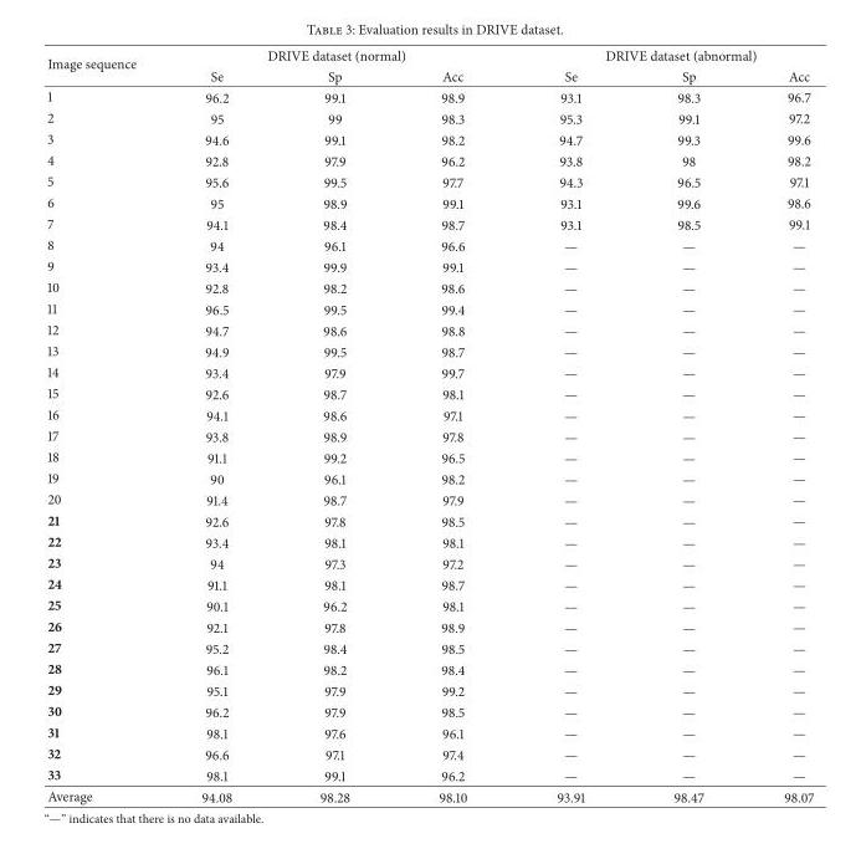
<table><thead><tr><td rowspan="2">Image sequence</td><td colspan="3">DRIVE dataset (normal)</td><td colspan="3">DRIVE dataset (abnormal)</td></tr><tr><td>Se</td><td>Sp</td><td>Acc</td><td>Se</td><td>Sp</td><td>Acc</td></tr></thead><tbody><tr><td>1</td><td>96.2</td><td>99.1</td><td>98.9</td><td>93.1</td><td>98.3</td><td>96.7</td></tr><tr><td>2</td><td>95</td><td>99</td><td>98.3</td><td>95.3</td><td>99.1</td><td>97.2</td></tr><tr><td>3</td><td>94.6</td><td>99.1</td><td>98.2</td><td>94.7</td><td>99.3</td><td>99.6</td></tr><tr><td>4</td><td>92.8</td><td>97.9</td><td>96.2</td><td>93.8</td><td>98</td><td>98.2</td></tr><tr><td>5</td><td>95.6</td><td>99.5</td><td>97.7</td><td>94.3</td><td>96.5</td><td>97.1</td></tr><tr><td>6</td><td>95</td><td>98.9</td><td>99.1</td><td>93.1</td><td>99.6</td><td>98.6</td></tr><tr><td>7</td><td>94.1</td><td>98.4</td><td>98.7</td><td>93.1</td><td>98.5</td><td>99.1</td></tr><tr><td>8</td><td>94</td><td>96.1</td><td>96.6</td><td>—</td><td>—</td><td>—</td></tr><tr><td>9</td><td>93.4</td><td>99.9</td><td>99.1</td><td>—</td><td>—</td><td>—</td></tr><tr><td>10</td><td>92.8</td><td>98.2</td><td>98.6</td><td>—</td><td>—</td><td>—</td></tr><tr><td>11</td><td>96.5</td><td>99.5</td><td>99.4</td><td>—</td><td>—</td><td>—</td></tr><tr><td>12</td><td>94.7</td><td>98.6</td><td>98.8</td><td>—</td><td>—</td><td>—</td></tr><tr><td>13</td><td>94.9</td><td>99.5</td><td>98.7</td><td>—</td><td>—</td><td>—</td></tr><tr><td>14</td><td>93.4</td><td>97.9</td><td>99.7</td><td>—</td><td>—</td><td>—</td></tr><tr><td>15</td><td>92.6</td><td>98.7</td><td>98.1</td><td>—</td><td>—</td><td>—</td></tr><tr><td>16</td><td>94.1</td><td>98.6</td><td>97.1</td><td>—</td><td>—</td><td>—</td></tr><tr><td>17</td><td>93.8</td><td>98.9</td><td>97.8</td><td>—</td><td>—</td><td>—</td></tr><tr><td>18</td><td>91.1</td><td>99.2</td><td>96.5</td><td>—</td><td>—</td><td>—</td></tr><tr><td>19</td><td>90</td><td>96.1</td><td>98.2</td><td>—</td><td>—</td><td>—</td></tr><tr><td>20</td><td>91.4</td><td>98.7</td><td>97.9</td><td>—</td><td>—</td><td>—</td></tr><tr><td>21</td><td>92.6</td><td>97.8</td><td>98.5</td><td>—</td><td>—</td><td>—</td></tr><tr><td>22</td><td>93.4</td><td>98.1</td><td>98.1</td><td>—</td><td>—</td><td>—</td></tr><tr><td>23</td><td>94</td><td>97.3</td><td>97.2</td><td>—</td><td>—</td><td>—</td></tr><tr><td>24</td><td>91.1</td><td>98.1</td><td>98.7</td><td>—</td><td>—</td><td>—</td></tr><tr><td>25</td><td>90.1</td><td>96.2</td><td>98.1</td><td>—</td><td>—</td><td>—</td></tr><tr><td>26</td><td>92.1</td><td>97.8</td><td>98.9</td><td>—</td><td>—</td><td>—</td></tr><tr><td>27</td><td>95.2</td><td>98.4</td><td>98.5</td><td>—</td><td>—</td><td>—</td></tr><tr><td>28</td><td>96.1</td><td>98.2</td><td>98.4</td><td>—</td><td>—</td><td>—</td></tr><tr><td>29</td><td>95.1</td><td>97.9</td><td>99.2</td><td>—</td><td>—</td><td>—</td></tr><tr><td>30</td><td>96.2</td><td>97.9</td><td>98.5</td><td>—</td><td>—</td><td>—</td></tr><tr><td>31</td><td>98.1</td><td>97.6</td><td>96.1</td><td>—</td><td>—</td><td>—</td></tr><tr><td>32</td><td>96.6</td><td>97.1</td><td>97.4</td><td>—</td><td>—</td><td>—</td></tr><tr><td>33</td><td>98.1</td><td>99.1</td><td>96.2</td><td>—</td><td>—</td><td>—</td></tr><tr><td>Average</td><td>94.08</td><td>98.28</td><td>98.10</td><td>93.91</td><td>98.47</td><td>98.07</td></tr></tbody></table>